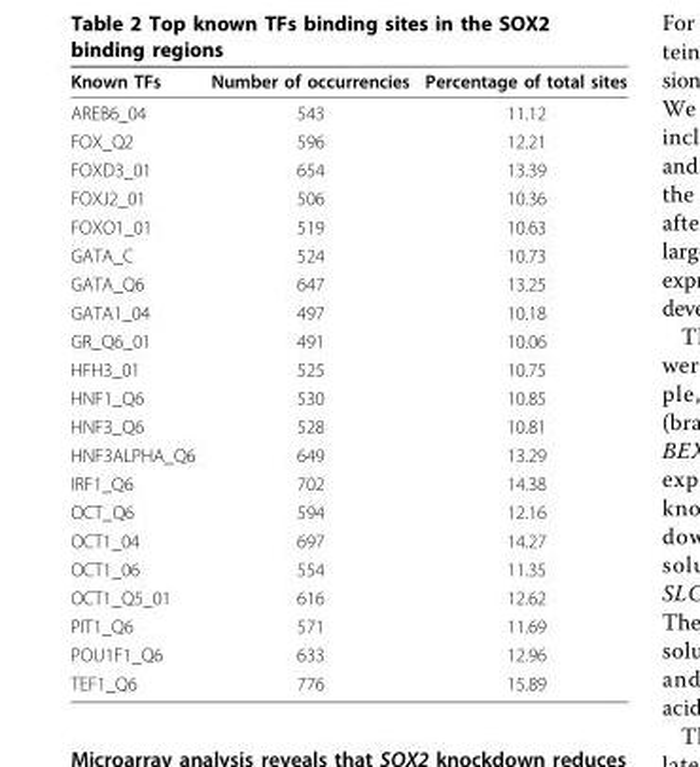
<table><thead><tr><td>Known TFs</td><td>Number of occurrencies</td><td>Percentage of total sites</td></tr></thead><tbody><tr><td>AREB6_04</td><td>543</td><td>11.12</td></tr><tr><td>FOX_Q2</td><td>596</td><td>12.21</td></tr><tr><td>FOXD3_01</td><td>654</td><td>13.39</td></tr><tr><td>FOXJ2_01</td><td>506</td><td>10.36</td></tr><tr><td>FOXO1_01</td><td>519</td><td>10.63</td></tr><tr><td>GATA_C</td><td>524</td><td>10.73</td></tr><tr><td>GATA_Q6</td><td>647</td><td>13.25</td></tr><tr><td>GATA1_04</td><td>497</td><td>10.18</td></tr><tr><td>GR_Q6_01</td><td>491</td><td>10.06</td></tr><tr><td>HFH3_01</td><td>525</td><td>10.75</td></tr><tr><td>HNF1_Q6</td><td>530</td><td>10.85</td></tr><tr><td>HNF3_Q6</td><td>528</td><td>10.81</td></tr><tr><td>HNF3ALPHA_Q6</td><td>649</td><td>13.29</td></tr><tr><td>IRF1_Q6</td><td>702</td><td>14.38</td></tr><tr><td>OCT_Q6</td><td>594</td><td>12.16</td></tr><tr><td>OCT1_04</td><td>697</td><td>14.27</td></tr><tr><td>OCT1_06</td><td>554</td><td>11.35</td></tr><tr><td>OCT1_Q5_01</td><td>616</td><td>12.62</td></tr><tr><td>PIT1_Q6</td><td>571</td><td>11.69</td></tr><tr><td>POU1F1_Q6</td><td>633</td><td>12.96</td></tr><tr><td>TEF1_Q6</td><td>776</td><td>15.89</td></tr></tbody></table>